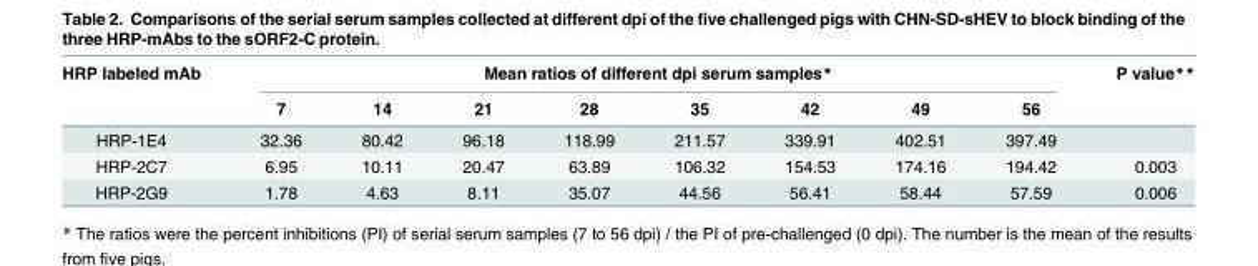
<table><thead><tr><td rowspan="2">HRP labeled mAb</td><td colspan="8">Mean ratios of different dpi serum samples*</td><td rowspan="2">P value**</td></tr><tr><td>7</td><td>14</td><td>21</td><td>28</td><td>35</td><td>42</td><td>49</td><td>56</td></tr></thead><tbody><tr><td>HRP-1E4</td><td>32.36</td><td>80.42</td><td>96.18</td><td>118.99</td><td>211.57</td><td>339.91</td><td>402.51</td><td>397.49</td><td></td></tr><tr><td>HRP-2C7</td><td>6.95</td><td>10.11</td><td>20.47</td><td>63.89</td><td>106.32</td><td>154.53</td><td>174.16</td><td>194.42</td><td>0.003</td></tr><tr><td>HRP-2G9</td><td>1.78</td><td>4.63</td><td>8.11</td><td>35.07</td><td>44.56</td><td>56.41</td><td>58.44</td><td>57.59</td><td>0.006</td></tr></tbody></table>